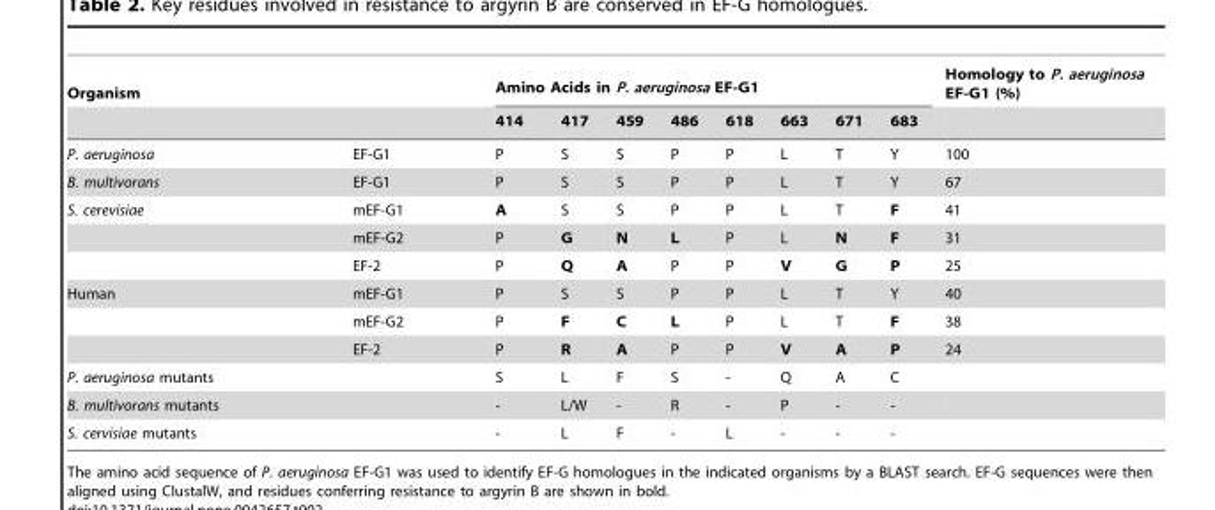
<table><thead><tr><td rowspan="2">Organism</td><td rowspan="2"></td><td colspan="8">Amino Acids in P. aeruginosa EF-G1</td><td rowspan="2">Homology to P. aeruginosa EF-G1 (%)</td></tr><tr><td>414</td><td>417</td><td>459</td><td>486</td><td>618</td><td>663</td><td>671</td><td>683</td></tr></thead><tbody><tr><td>P. aeruginosa</td><td>EF-G1</td><td>P</td><td>S</td><td>S</td><td>P</td><td>P</td><td>L</td><td>T</td><td>Y</td><td>100</td></tr><tr><td>B. multivorans</td><td>EF-G1</td><td>P</td><td>S</td><td>S</td><td>P</td><td>P</td><td>L</td><td>T</td><td>Y</td><td>67</td></tr><tr><td rowspan="3">S. cerevisiae</td><td>mEF-G1</td><td>A</td><td>S</td><td>S</td><td>P</td><td>P</td><td>L</td><td>T</td><td>F</td><td>41</td></tr><tr><td>mEF-G2</td><td>P</td><td>G</td><td>N</td><td>L</td><td>P</td><td>L</td><td>N</td><td>F</td><td>31</td></tr><tr><td>EF-2</td><td>P</td><td>Q</td><td>A</td><td>P</td><td>P</td><td>V</td><td>G</td><td>P</td><td>25</td></tr><tr><td rowspan="3">Human</td><td>mEF-G1</td><td>P</td><td>S</td><td>S</td><td>P</td><td>P</td><td>L</td><td>T</td><td>Y</td><td>40</td></tr><tr><td>mEF-G2</td><td>P</td><td>F</td><td>C</td><td>L</td><td>P</td><td>L</td><td>T</td><td>F</td><td>38</td></tr><tr><td>EF-2</td><td>P</td><td>R</td><td>A</td><td>P</td><td>P</td><td>V</td><td>A</td><td>P</td><td>24</td></tr><tr><td>P. aeruginosa mutants</td><td></td><td>S</td><td>L</td><td>F</td><td>S</td><td>-</td><td>Q</td><td>A</td><td>C</td><td></td></tr><tr><td>B. multivorans mutants</td><td></td><td>-</td><td>L/W</td><td>-</td><td>R</td><td>-</td><td>P</td><td>-</td><td>-</td><td></td></tr><tr><td>S. cervisiae mutants</td><td></td><td>-</td><td>L</td><td>F</td><td>-</td><td>L</td><td>-</td><td>-</td><td>-</td><td></td></tr></tbody></table>